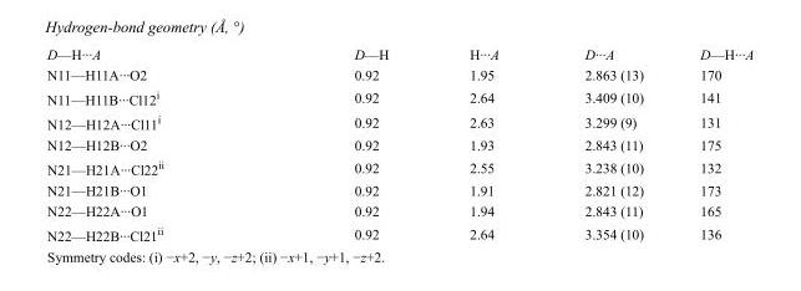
<table><tbody><tr><td>D—H···A</td><td>D—H</td><td>H···A</td><td>D···A</td><td>D—H···A</td></tr><tr><td>N11—H11A···O2</td><td>0.92</td><td>1.95</td><td>2.863 (13)</td><td>170</td></tr><tr><td>N11—H11B···Cl12<sup>i</sup></td><td>0.92</td><td>2.64</td><td>3.409 (10)</td><td>141</td></tr><tr><td>N12—H12A···Cl11<sup>i</sup></td><td>0.92</td><td>2.63</td><td>3.299 (9)</td><td>131</td></tr><tr><td>N12—H12B···O2</td><td>0.92</td><td>1.93</td><td>2.843 (11)</td><td>175</td></tr><tr><td>N21—H21A···Cl22<sup>ii</sup></td><td>0.92</td><td>2.55</td><td>3.238 (10)</td><td>132</td></tr><tr><td>N21—H21B···O1</td><td>0.92</td><td>1.91</td><td>2.821 (12)</td><td>173</td></tr><tr><td>N22—H22A···O1</td><td>0.92</td><td>1.94</td><td>2.843 (11)</td><td>165</td></tr><tr><td>N22—H22B···Cl21<sup>ii</sup></td><td>0.92</td><td>2.64</td><td>3.354 (10)</td><td>136</td></tr></tbody></table>